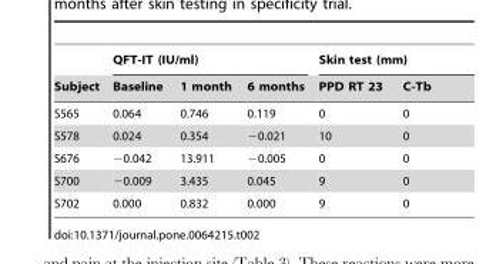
<table><thead><tr><td rowspan="2">Subject</td><td colspan="3">QFT-IT (IU/ml)</td><td colspan="2">Skin test (mm)</td></tr><tr><td>Baseline</td><td>1 month</td><td>6 months</td><td>PPD RT 23</td><td>C-Tb</td></tr></thead><tbody><tr><td>S565</td><td>0.064</td><td>0.746</td><td>0.119</td><td>0</td><td>0</td></tr><tr><td>S578</td><td>0.024</td><td>0.354</td><td>−0.021</td><td>10</td><td>0</td></tr><tr><td>S676</td><td>−0.042</td><td>13.911</td><td>−0.005</td><td>0</td><td>0</td></tr><tr><td>S700</td><td>−0.009</td><td>3.435</td><td>0.045</td><td>9</td><td>0</td></tr><tr><td>S702</td><td>0.000</td><td>0.832</td><td>0.000</td><td>9</td><td>0</td></tr></tbody></table>